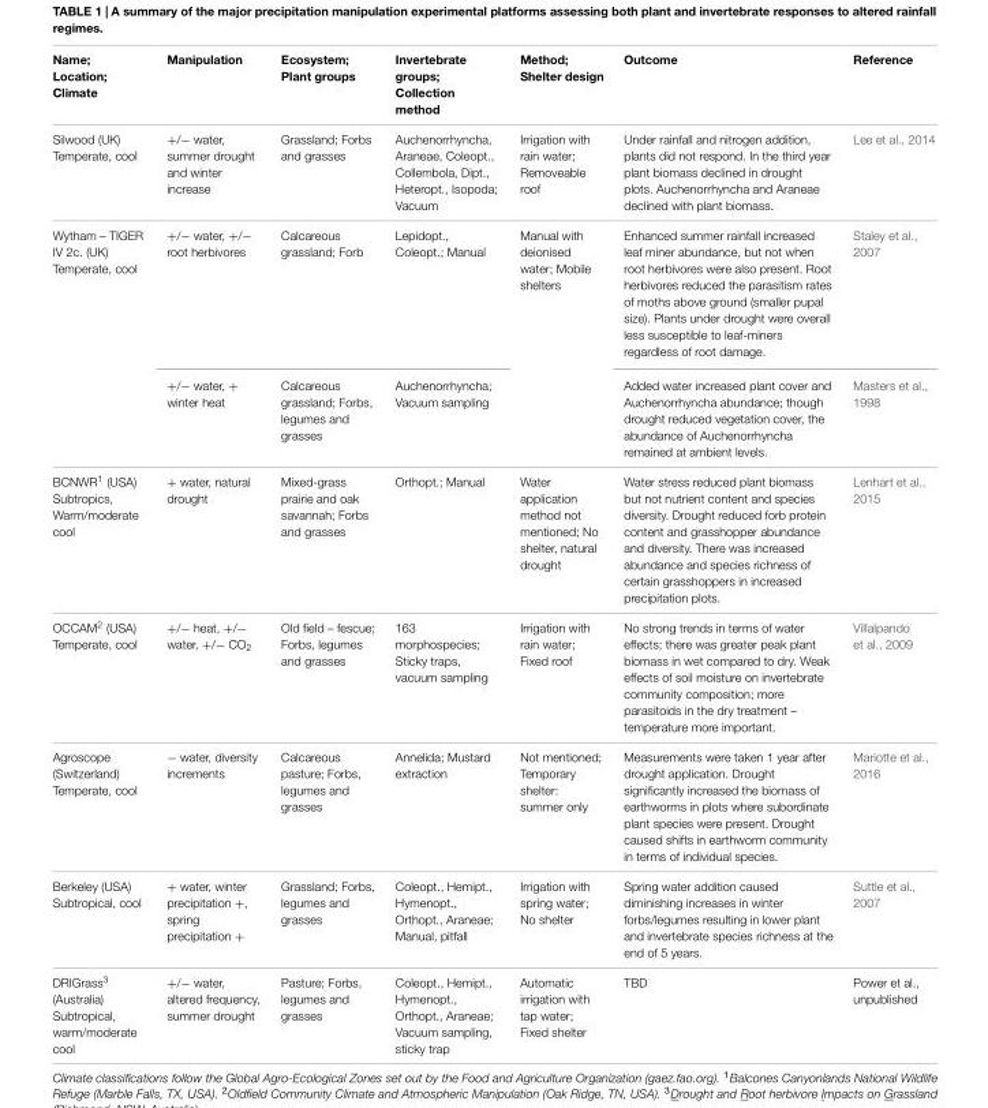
<table><thead><tr><td>Name; Location; Climate</td><td>Manipulation</td><td>Ecosystem; Plant groups</td><td>Invertebrate groups; Collection method</td><td>Method; Shelter design</td><td>Outcome</td><td>Reference</td></tr></thead><tbody><tr><td>Silwood (UK) Temperate, cool</td><td>+/− water, summer drought and winter increase</td><td>Grassland; Forbs and grasses</td><td>Auchenorrhyncha, Araneae, Coleopt., Collembola, Dipt., Heteropt., Isopoda; Vacuum</td><td>Irrigation with rain water; Removeable roof</td><td>Under rainfall and nitrogen addition, plants did not respond. In the third year plant biomass declined in drought plots. Auchenorrhyncha and Araneae declined with plant biomass.</td><td>Lee et al., 2014</td></tr><tr><td rowspan="2">Wytham – TIGER IV 2c. (UK) Temperate, cool</td><td>+/− water, +/− root herbivores</td><td>Calcareous grassland; Forb</td><td>Lepidopt., Coleopt.; Manual</td><td>Manual with deionised water; Mobile shelters</td><td>Enhanced summer rainfall increased leaf miner abundance, but not when root herbivores were also present. Root herbivores reduced the parasitism rates of moths above ground (smaller pupal size). Plants under drought were overall less susceptible to leaf-miners regardless of root damage.</td><td>Staley et al., 2007</td></tr><tr><td>+/− water, + winter heat</td><td>Calcareous grassland; Forbs, legumes and grasses</td><td>Auchenorrhyncha; Vacuum sampling</td><td></td><td>Added water increased plant cover and Auchenorrhyncha abundance; though drought reduced vegetation cover, the abundance of Auchenorrhyncha remained at ambient levels.</td><td>Masters et al., 1998</td></tr><tr><td>BCNWR<sup>1</sup> (USA) Subtropics, Warm/moderate cool</td><td>+ water, natural drought</td><td>Mixed-grass prairie and oak savannah; Forbs and grasses</td><td>Orthopt.; Manual</td><td>Water application method not mentioned; No shelter, natural drought</td><td>Water stress reduced plant biomass but not nutrient content and species diversity. Drought reduced forb protein content and grasshopper abundance and diversity. There was increased abundance and species richness of certain grasshoppers in increased precipitation plots.</td><td>Lenhart et al., 2015</td></tr><tr><td>OCCAM<sup>2</sup> (USA) Temperate, cool</td><td>+/− heat, +/− water, +/− CO<sub>2</sub></td><td>Old field – fescue; Forbs, legumes and grasses</td><td>163 morphospecies; Sticky traps, vacuum sampling</td><td>Irrigation with rain water; Fixed roof</td><td>No strong trends in terms of water effects; there was greater peak plant biomass in wet compared to dry. Weak effects of soil moisture on invertebrate community composition; more parasitoids in the dry treatment – temperature more important.</td><td>Villalpando et al., 2009</td></tr><tr><td>Agroscope (Switzerland) Temperate, cool</td><td>− water, diversity increments</td><td>Calcareous pasture; Forbs, legumes and grasses</td><td>Annelida; Mustard extraction</td><td>Not mentioned; Temporary shelter: summer only</td><td>Measurements were taken 1 year after drought application. Drought significantly increased the biomass of earthworms in plots where subordinate plant species were present. Drought caused shifts in earthworm community in terms of individual species.</td><td>Mariotte et al., 2016</td></tr><tr><td>Berkeley (USA) Subtropical, cool</td><td>+ water, winter precipitation +, spring precipitation +</td><td>Grassland; Forbs, legumes and grasses</td><td>Coleopt., Hemipt., Hymenopt., Orthopt., Araneae; Manual, pitfall</td><td>Irrigation with spring water; No shelter</td><td>Spring water addition caused diminishing increases in winter forbs/legumes resulting in lower plant and invertebrate species richness at the end of 5 years.</td><td>Suttle et al., 2007</td></tr><tr><td>DRIGrass<sup>3</sup> (Australia) Subtropical, warm/moderate cool</td><td>+/− water, altered frequency, summer drought</td><td>Pasture; Forbs, legumes and grasses</td><td>Coleopt., Hemipt., Hymenopt., Orthopt., Araneae; Vacuum sampling, sticky trap</td><td>Automatic irrigation with tap water; Fixed shelter</td><td>TBD</td><td>Power et al., unpublished</td></tr></tbody></table>